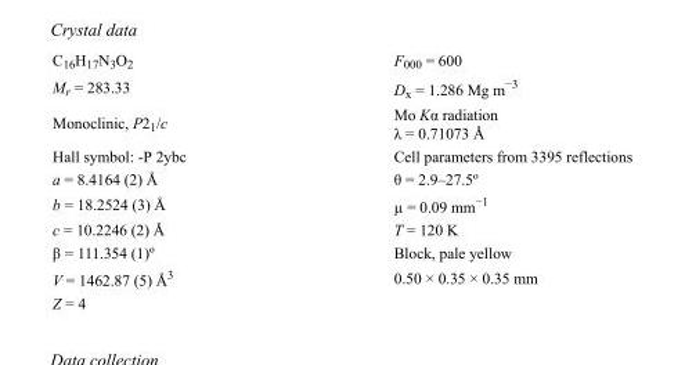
<table><tbody><tr><td>C<sub>16</sub>H<sub>17</sub>N<sub>3</sub>O<sub>2</sub></td><td>F000 = 600</td></tr><tr><td>M<sub>r</sub> = 283.33</td><td>D<sub>x</sub> = 1.286 Mg m<sup>−3</sup></td></tr><tr><td>Monoclinic, P2<sub>1</sub>/c</td><td>Mo Kα radiation λ = 0.71073 Å</td></tr><tr><td>Hall symbol: -P 2ybc</td><td>Cell parameters from 3395 reflections</td></tr><tr><td>a = 8.4164 (2) Å</td><td>θ = 2.9–27.5º</td></tr><tr><td>b = 18.2524 (3) Å</td><td>µ = 0.09 mm<sup>−1</sup></td></tr><tr><td>c = 10.2246 (2) Å</td><td>T = 120 K</td></tr><tr><td>β = 111.354 (1)º</td><td>Block, pale yellow</td></tr><tr><td>V = 1462.87 (5) Å<sup>3</sup></td><td>0.50 × 0.35 × 0.35 mm</td></tr><tr><td>Z = 4</td><td></td></tr></tbody></table>